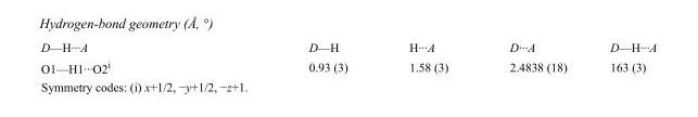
<table><tbody><tr><td>D—H···A</td><td>D—H</td><td>H···A</td><td>D···A</td><td>D—H···A</td></tr><tr><td>O1—H1···O2<sup>i</sup></td><td>0.93 (3)</td><td>1.58 (3)</td><td>2.4838 (18)</td><td>163 (3)</td></tr></tbody></table>